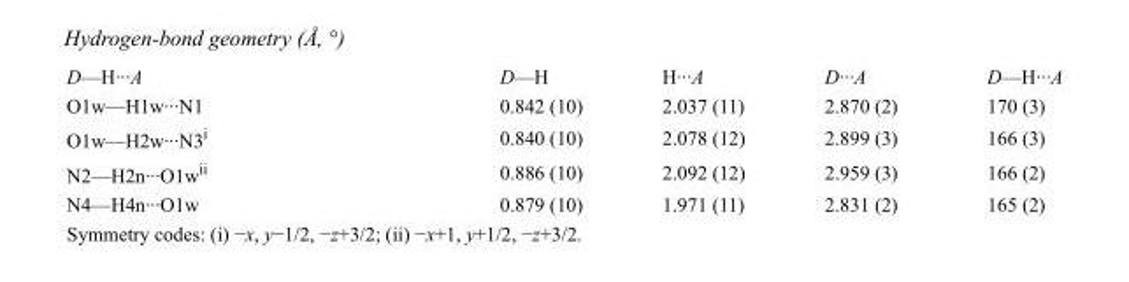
<table><tbody><tr><td>D—H···A</td><td>D—H</td><td>H···A</td><td>D···A</td><td>D—H···A</td></tr><tr><td>O1w—H1w···N1</td><td>0.842 (10)</td><td>2.037 (11)</td><td>2.870 (2)</td><td>170 (3)</td></tr><tr><td>O1w—H2w···N3<sup>i</sup></td><td>0.840 (10)</td><td>2.078 (12)</td><td>2.899 (3)</td><td>166 (3)</td></tr><tr><td>N2—H2n···O1w<sup>ii</sup></td><td>0.886 (10)</td><td>2.092 (12)</td><td>2.959 (3)</td><td>166 (2)</td></tr><tr><td>N4—H4n···O1w</td><td>0.879 (10)</td><td>1.971 (11)</td><td>2.831 (2)</td><td>165 (2)</td></tr></tbody></table>